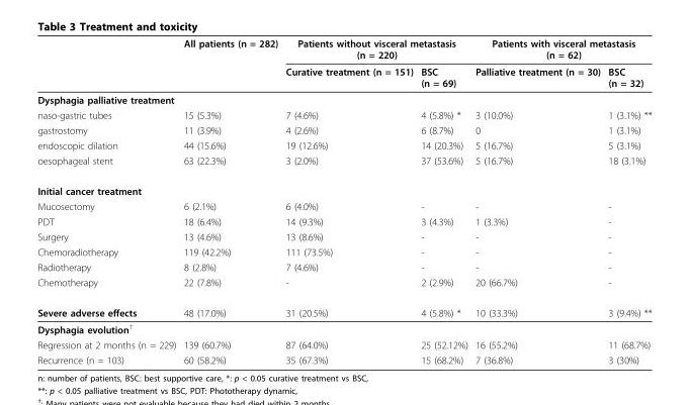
<table><thead><tr><td rowspan="2"></td><td rowspan="2">All patients (n = 282)</td><td colspan="2">Patients without visceral metastasis (n = 220)</td><td colspan="2">Patients with visceral metastasis (n = 62)</td></tr><tr><td>Curative treatment (n = 151)</td><td>BSC (n = 69)</td><td>Palliative treatment (n = 30)</td><td>BSC (n = 32)</td></tr></thead><tbody><tr><td colspan="6">Dysphagia palliative treatment</td></tr><tr><td>naso-gastric tubes</td><td>15 (5.3%)</td><td>7 (4.6%)</td><td>4 (5.8%) *</td><td>3 (10.0%)</td><td>1 (3.1%) **</td></tr><tr><td>gastrostomy</td><td>11 (3.9%)</td><td>4 (2.6%)</td><td>6 (8.7%)</td><td>0</td><td>1 (3.1%)</td></tr><tr><td>endoscopic dilation</td><td>44 (15.6%)</td><td>19 (12.6%)</td><td>14 (20.3%)</td><td>5 (16.7%)</td><td>5 (3.1%)</td></tr><tr><td>oesophageal stent</td><td>63 (22.3%)</td><td>3 (2.0%)</td><td>37 (53.6%)</td><td>5 (16.7%)</td><td>18 (3.1%)</td></tr><tr><td colspan="6">Initial cancer treatment</td></tr><tr><td>Mucosectomy</td><td>6 (2.1%)</td><td>6 (4.0%)</td><td>-</td><td>-</td><td>-</td></tr><tr><td>PDT</td><td>18 (6.4%)</td><td>14 (9.3%)</td><td>3 (4.3%)</td><td>1 (3.3%)</td><td>-</td></tr><tr><td>Surgery</td><td>13 (4.6%)</td><td>13 (8.6%)</td><td>-</td><td>-</td><td>-</td></tr><tr><td>Chemoradiotherapy</td><td>119 (42.2%)</td><td>111 (73.5%)</td><td>-</td><td>-</td><td>-</td></tr><tr><td>Radiotherapy</td><td>8 (2.8%)</td><td>7 (4.6%)</td><td>-</td><td>-</td><td>-</td></tr><tr><td>Chemotherapy</td><td>22 (7.8%)</td><td>-</td><td>2 (2.9%)</td><td>20 (66.7%)</td><td>-</td></tr><tr><td>Severe adverse effects</td><td>48 (17.0%)</td><td>31 (20.5%)</td><td>4 (5.8%) *</td><td>10 (33.3%)</td><td>3 (9.4%) **</td></tr><tr><td colspan="6">Dysphagia evolution<sup>†</sup></td></tr><tr><td>Regression at 2 months (n = 229)</td><td>139 (60.7%)</td><td>87 (64.0%)</td><td>25 (52.12%)</td><td>16 (55.2%)</td><td>11 (68.7%)</td></tr><tr><td>Recurrence (n = 103)</td><td>60 (58.2%)</td><td>35 (67.3%)</td><td>15 (68.2%)</td><td>7 (36.8%)</td><td>3 (30%)</td></tr></tbody></table>